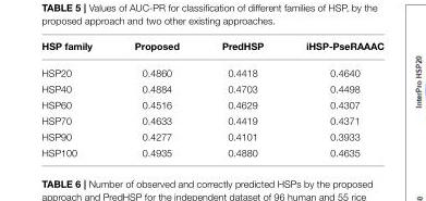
<table><thead><tr><td>HSP family</td><td>Proposed</td><td>PredHSP</td><td>iHSP-PseRAAAC</td></tr></thead><tbody><tr><td>HSP20</td><td>0.4860</td><td>0.4418</td><td>0.4640</td></tr><tr><td>HSP40</td><td>0.4884</td><td>0.4703</td><td>0.4498</td></tr><tr><td>HSP60</td><td>0.4516</td><td>0.4629</td><td>0.4307</td></tr><tr><td>HSP70</td><td>0.4633</td><td>0.4419</td><td>0.4371</td></tr><tr><td>HSP90</td><td>0.4277</td><td>0.4101</td><td>0.3933</td></tr><tr><td>HSP100</td><td>0.4935</td><td>0.4880</td><td>0.4635</td></tr></tbody></table>